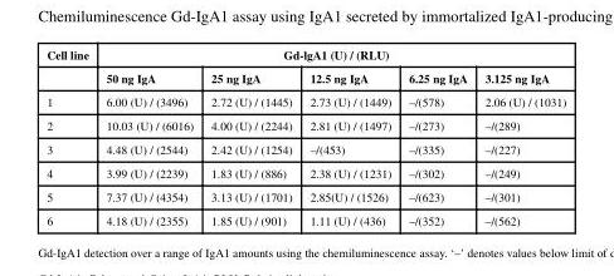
<table><thead><tr><td rowspan="2">Cell line</td><td colspan="5">Gd-lgA1 (U) / (RLU)</td></tr><tr><td>50 ng IgA</td><td>25 ng IgA</td><td>12.5 ng IgA</td><td>6.25 ng IgA</td><td>3.125 ng IgA</td></tr></thead><tbody><tr><td>1</td><td>6.00 (U) / (3496)</td><td>2.72 (U) / (1445)</td><td>2.73 (U) / (1449)</td><td>–/(578)</td><td>2.06 (U) / (1031)</td></tr><tr><td>2</td><td>10.03 (U) / (6016)</td><td>4.00 (U) / (2244)</td><td>2.81 (U) / (1497)</td><td>–/(273)</td><td>–/(289)</td></tr><tr><td>3</td><td>4.48 (U) / (2544)</td><td>2.42 (U) / (1254)</td><td>–/(453)</td><td>–/(335)</td><td>–/(227)</td></tr><tr><td>4</td><td>3.99 (U) / (2239)</td><td>1.83 (U) / (886)</td><td>2.38 (U) / (1231)</td><td>–/(302)</td><td>–/(249)</td></tr><tr><td>5</td><td>7.37 (U) / (4354)</td><td>3.13 (U) / (1701)</td><td>2.85(U) / (1526)</td><td>–/(623)</td><td>–/(301)</td></tr><tr><td>6</td><td>4.18 (U) / (2355)</td><td>1.85 (U) / (901)</td><td>1.11 (U) / (436)</td><td>–/(352)</td><td>–/(562)</td></tr></tbody></table>